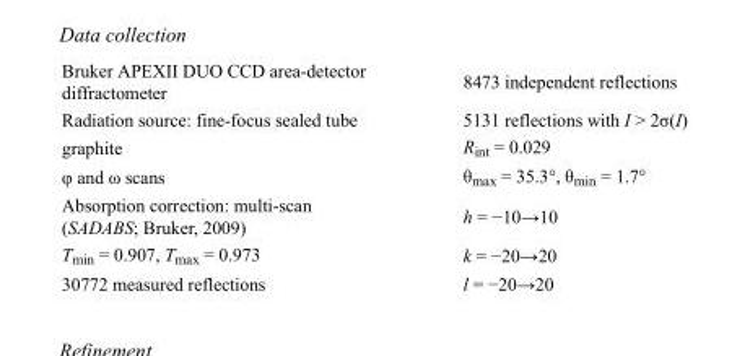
<table><tbody><tr><td>Bruker APEXII DUO CCD area-detector diffractometer</td><td>8473 independent reflections</td></tr><tr><td>Radiation source: fine-focus sealed tube</td><td>5131 reflections with I &gt; 2σ(I)</td></tr><tr><td>graphite</td><td>R<sub>int</sub> = 0.029</td></tr><tr><td>φ and ω scans</td><td>θ<sub>max</sub> = 35.3°, θ<sub>min</sub> = 1.7°</td></tr><tr><td>Absorption correction: multi-scan (SADABS; Bruker, 2009)</td><td>h = −10→10</td></tr><tr><td>T<sub>min</sub> = 0.907, T<sub>max</sub> = 0.973</td><td>k = −20→20</td></tr><tr><td>30772 measured reflections</td><td>l = −20→20</td></tr></tbody></table>